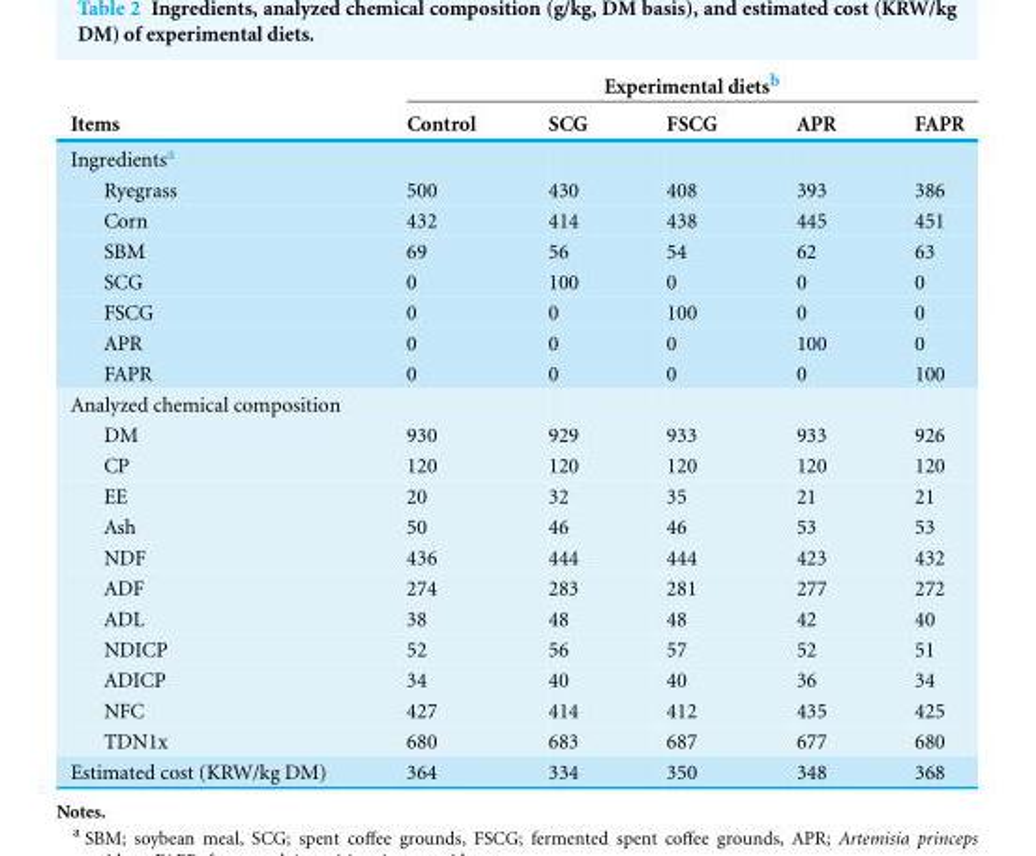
<table><thead><tr><td rowspan="2">Items</td><td colspan="5">Experimental diets<sup>b</sup></td></tr><tr><td>Control</td><td>SCG</td><td>FSCG</td><td>APR</td><td>FAPR</td></tr></thead><tbody><tr><td colspan="6">Ingredients<sup>a</sup></td></tr><tr><td>Ryegrass</td><td>500</td><td>430</td><td>408</td><td>393</td><td>386</td></tr><tr><td>Corn</td><td>432</td><td>414</td><td>438</td><td>445</td><td>451</td></tr><tr><td>SBM</td><td>69</td><td>56</td><td>54</td><td>62</td><td>63</td></tr><tr><td>SCG</td><td>0</td><td>100</td><td>0</td><td>0</td><td>0</td></tr><tr><td>FSCG</td><td>0</td><td>0</td><td>100</td><td>0</td><td>0</td></tr><tr><td>APR</td><td>0</td><td>0</td><td>0</td><td>100</td><td>0</td></tr><tr><td>FAPR</td><td>0</td><td>0</td><td>0</td><td>0</td><td>100</td></tr><tr><td colspan="6">Analyzed chemical composition</td></tr><tr><td>DM</td><td>930</td><td>929</td><td>933</td><td>933</td><td>926</td></tr><tr><td>CP</td><td>120</td><td>120</td><td>120</td><td>120</td><td>120</td></tr><tr><td>EE</td><td>20</td><td>32</td><td>35</td><td>21</td><td>21</td></tr><tr><td>Ash</td><td>50</td><td>46</td><td>46</td><td>53</td><td>53</td></tr><tr><td>NDF</td><td>436</td><td>444</td><td>444</td><td>423</td><td>432</td></tr><tr><td>ADF</td><td>274</td><td>283</td><td>281</td><td>277</td><td>272</td></tr><tr><td>ADL</td><td>38</td><td>48</td><td>48</td><td>42</td><td>40</td></tr><tr><td>NDICP</td><td>52</td><td>56</td><td>57</td><td>52</td><td>51</td></tr><tr><td>ADICP</td><td>34</td><td>40</td><td>40</td><td>36</td><td>34</td></tr><tr><td>NFC</td><td>427</td><td>414</td><td>412</td><td>435</td><td>425</td></tr><tr><td>TDN1x</td><td>680</td><td>683</td><td>687</td><td>677</td><td>680</td></tr><tr><td>Estimated cost (KRW/kg DM)</td><td>364</td><td>334</td><td>350</td><td>348</td><td>368</td></tr></tbody></table>